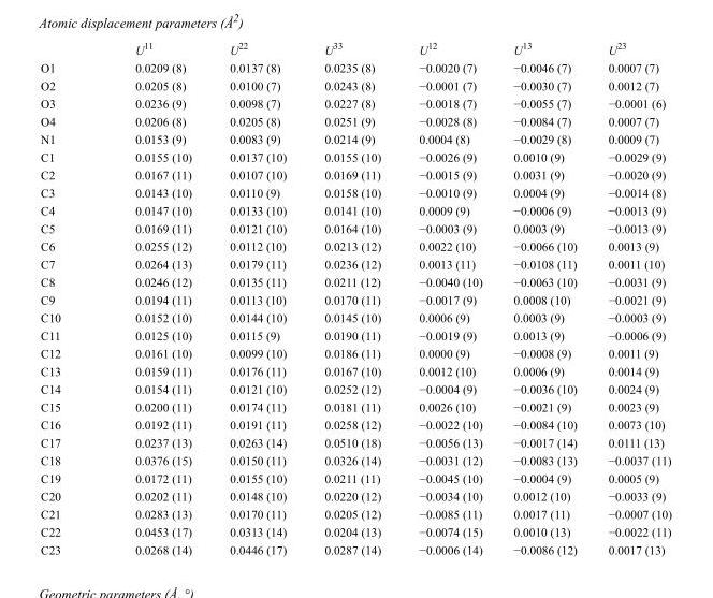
<table><thead><tr><td></td><td>U<sup>11</sup></td><td>U<sup>22</sup></td><td>U<sup>33</sup></td><td>U<sup>12</sup></td><td>U<sup>13</sup></td><td>U<sup>23</sup></td></tr></thead><tbody><tr><td>O1</td><td>0.0209 (8)</td><td>0.0137 (8)</td><td>0.0235 (8)</td><td>−0.0020 (7)</td><td>−0.0046 (7)</td><td>0.0007 (7)</td></tr><tr><td>O2</td><td>0.0205 (8)</td><td>0.0100 (7)</td><td>0.0243 (8)</td><td>−0.0001 (7)</td><td>−0.0030 (7)</td><td>0.0012 (7)</td></tr><tr><td>O3</td><td>0.0236 (9)</td><td>0.0098 (7)</td><td>0.0227 (8)</td><td>−0.0018 (7)</td><td>−0.0055 (7)</td><td>−0.0001 (6)</td></tr><tr><td>O4</td><td>0.0206 (8)</td><td>0.0205 (8)</td><td>0.0251 (9)</td><td>−0.0028 (8)</td><td>−0.0084 (7)</td><td>0.0007 (7)</td></tr><tr><td>N1</td><td>0.0153 (9)</td><td>0.0083 (9)</td><td>0.0214 (9)</td><td>0.0004 (8)</td><td>−0.0029 (8)</td><td>0.0009 (7)</td></tr><tr><td>C1</td><td>0.0155 (10)</td><td>0.0137 (10)</td><td>0.0155 (10)</td><td>−0.0026 (9)</td><td>0.0010 (9)</td><td>−0.0029 (9)</td></tr><tr><td>C2</td><td>0.0167 (11)</td><td>0.0107 (10)</td><td>0.0169 (11)</td><td>−0.0015 (9)</td><td>0.0031 (9)</td><td>−0.0020 (9)</td></tr><tr><td>C3</td><td>0.0143 (10)</td><td>0.0110 (9)</td><td>0.0158 (10)</td><td>−0.0010 (9)</td><td>0.0004 (9)</td><td>−0.0014 (8)</td></tr><tr><td>C4</td><td>0.0147 (10)</td><td>0.0133 (10)</td><td>0.0141 (10)</td><td>0.0009 (9)</td><td>−0.0006 (9)</td><td>−0.0013 (9)</td></tr><tr><td>C5</td><td>0.0169 (11)</td><td>0.0121 (10)</td><td>0.0164 (10)</td><td>−0.0003 (9)</td><td>0.0003 (9)</td><td>−0.0013 (9)</td></tr><tr><td>C6</td><td>0.0255 (12)</td><td>0.0112 (10)</td><td>0.0213 (12)</td><td>0.0022 (10)</td><td>−0.0066 (10)</td><td>0.0013 (9)</td></tr><tr><td>C7</td><td>0.0264 (13)</td><td>0.0179 (11)</td><td>0.0236 (12)</td><td>0.0013 (11)</td><td>−0.0108 (11)</td><td>0.0011 (10)</td></tr><tr><td>C8</td><td>0.0246 (12)</td><td>0.0135 (11)</td><td>0.0211 (12)</td><td>−0.0040 (10)</td><td>−0.0063 (10)</td><td>−0.0031 (9)</td></tr><tr><td>C9</td><td>0.0194 (11)</td><td>0.0113 (10)</td><td>0.0170 (11)</td><td>−0.0017 (9)</td><td>0.0008 (10)</td><td>−0.0021 (9)</td></tr><tr><td>C10</td><td>0.0152 (10)</td><td>0.0144 (10)</td><td>0.0145 (10)</td><td>0.0006 (9)</td><td>0.0003 (9)</td><td>−0.0003 (9)</td></tr><tr><td>C11</td><td>0.0125 (10)</td><td>0.0115 (9)</td><td>0.0190 (11)</td><td>−0.0019 (9)</td><td>0.0013 (9)</td><td>−0.0006 (9)</td></tr><tr><td>C12</td><td>0.0161 (10)</td><td>0.0099 (10)</td><td>0.0186 (11)</td><td>0.0000 (9)</td><td>−0.0008 (9)</td><td>0.0011 (9)</td></tr><tr><td>C13</td><td>0.0159 (11)</td><td>0.0176 (11)</td><td>0.0167 (10)</td><td>0.0012 (10)</td><td>0.0006 (9)</td><td>0.0014 (9)</td></tr><tr><td>C14</td><td>0.0154 (11)</td><td>0.0121 (10)</td><td>0.0252 (12)</td><td>−0.0004 (9)</td><td>−0.0036 (10)</td><td>0.0024 (9)</td></tr><tr><td>C15</td><td>0.0200 (11)</td><td>0.0174 (11)</td><td>0.0181 (11)</td><td>0.0026 (10)</td><td>−0.0021 (9)</td><td>0.0023 (9)</td></tr><tr><td>C16</td><td>0.0192 (11)</td><td>0.0191 (11)</td><td>0.0258 (12)</td><td>−0.0022 (10)</td><td>−0.0084 (10)</td><td>0.0073 (10)</td></tr><tr><td>C17</td><td>0.0237 (13)</td><td>0.0263 (14)</td><td>0.0510 (18)</td><td>−0.0056 (13)</td><td>−0.0017 (14)</td><td>0.0111 (13)</td></tr><tr><td>C18</td><td>0.0376 (15)</td><td>0.0150 (11)</td><td>0.0326 (14)</td><td>−0.0031 (12)</td><td>−0.0083 (13)</td><td>−0.0037 (11)</td></tr><tr><td>C19</td><td>0.0172 (11)</td><td>0.0155 (10)</td><td>0.0211 (11)</td><td>−0.0045 (10)</td><td>−0.0004 (9)</td><td>0.0005 (9)</td></tr><tr><td>C20</td><td>0.0202 (11)</td><td>0.0148 (10)</td><td>0.0220 (12)</td><td>−0.0034 (10)</td><td>0.0012 (10)</td><td>−0.0033 (9)</td></tr><tr><td>C21</td><td>0.0283 (13)</td><td>0.0170 (11)</td><td>0.0205 (12)</td><td>−0.0085 (11)</td><td>0.0017 (11)</td><td>−0.0007 (10)</td></tr><tr><td>C22</td><td>0.0453 (17)</td><td>0.0313 (14)</td><td>0.0204 (13)</td><td>−0.0074 (15)</td><td>0.0010 (13)</td><td>−0.0022 (11)</td></tr><tr><td>C23</td><td>0.0268 (14)</td><td>0.0446 (17)</td><td>0.0287 (14)</td><td>−0.0006 (14)</td><td>−0.0086 (12)</td><td>0.0017 (13)</td></tr></tbody></table>